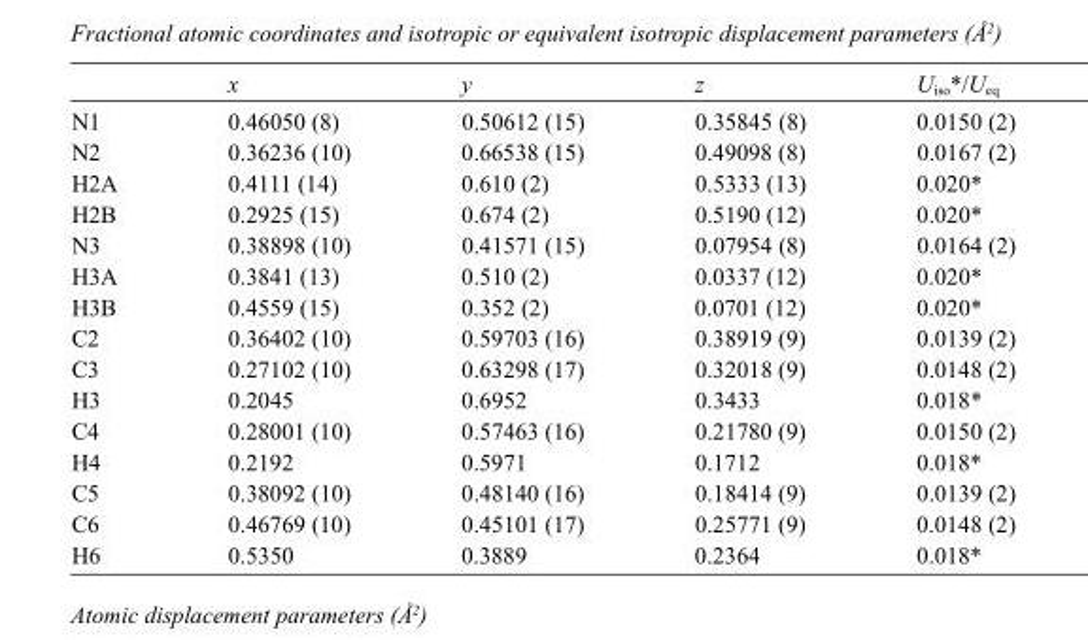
<table><thead><tr><td></td><td>x</td><td>y</td><td>z</td><td>U<sub>iso</sub>*/U<sub>eq</sub></td></tr></thead><tbody><tr><td>N1</td><td>0.46050 (8)</td><td>0.50612 (15)</td><td>0.35845 (8)</td><td>0.0150 (2)</td></tr><tr><td>N2</td><td>0.36236 (10)</td><td>0.66538 (15)</td><td>0.49098 (8)</td><td>0.0167 (2)</td></tr><tr><td>H2A</td><td>0.4111 (14)</td><td>0.610 (2)</td><td>0.5333 (13)</td><td>0.020*</td></tr><tr><td>H2B</td><td>0.2925 (15)</td><td>0.674 (2)</td><td>0.5190 (12)</td><td>0.020*</td></tr><tr><td>N3</td><td>0.38898 (10)</td><td>0.41571 (15)</td><td>0.07954 (8)</td><td>0.0164 (2)</td></tr><tr><td>H3A</td><td>0.3841 (13)</td><td>0.510 (2)</td><td>0.0337 (12)</td><td>0.020*</td></tr><tr><td>H3B</td><td>0.4559 (15)</td><td>0.352 (2)</td><td>0.0701 (12)</td><td>0.020*</td></tr><tr><td>C2</td><td>0.36402 (10)</td><td>0.59703 (16)</td><td>0.38919 (9)</td><td>0.0139 (2)</td></tr><tr><td>C3</td><td>0.27102 (10)</td><td>0.63298 (17)</td><td>0.32018 (9)</td><td>0.0148 (2)</td></tr><tr><td>H3</td><td>0.2045</td><td>0.6952</td><td>0.3433</td><td>0.018*</td></tr><tr><td>C4</td><td>0.28001 (10)</td><td>0.57463 (16)</td><td>0.21780 (9)</td><td>0.0150 (2)</td></tr><tr><td>H4</td><td>0.2192</td><td>0.5971</td><td>0.1712</td><td>0.018*</td></tr><tr><td>C5</td><td>0.38092 (10)</td><td>0.48140 (16)</td><td>0.18414 (9)</td><td>0.0139 (2)</td></tr><tr><td>C6</td><td>0.46769 (10)</td><td>0.45101 (17)</td><td>0.25771 (9)</td><td>0.0148 (2)</td></tr><tr><td>H6</td><td>0.5350</td><td>0.3889</td><td>0.2364</td><td>0.018*</td></tr></tbody></table>